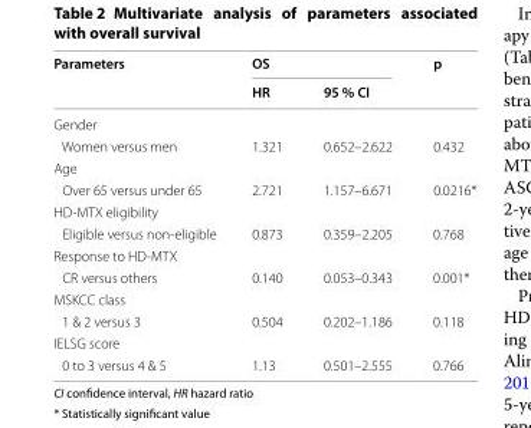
<table><thead><tr><td rowspan="2">Parameters</td><td colspan="2">OS</td><td rowspan="2">p</td></tr><tr><td>HR</td><td>95 % CI</td></tr></thead><tbody><tr><td colspan="4">Gender</td></tr><tr><td>Women versus men</td><td>1.321</td><td>0.652–2.622</td><td>0.432</td></tr><tr><td colspan="4">Age</td></tr><tr><td>Over 65 versus under 65</td><td>2.721</td><td>1.157–6.671</td><td>0.0216*</td></tr><tr><td colspan="4">HD-MTX eligibility</td></tr><tr><td>Eligible versus non-eligible</td><td>0.873</td><td>0.359–2.205</td><td>0.768</td></tr><tr><td colspan="4">Response to HD-MTX</td></tr><tr><td>CR versus others</td><td>0.140</td><td>0.053–0.343</td><td>0.001*</td></tr><tr><td colspan="4">MSKCC class</td></tr><tr><td>1 &amp; 2 versus 3</td><td>0.504</td><td>0.202–1.186</td><td>0.118</td></tr><tr><td colspan="4">IELSG score</td></tr><tr><td>0 to 3 versus 4 &amp; 5</td><td>1.13</td><td>0.501–2.555</td><td>0.766</td></tr></tbody></table>